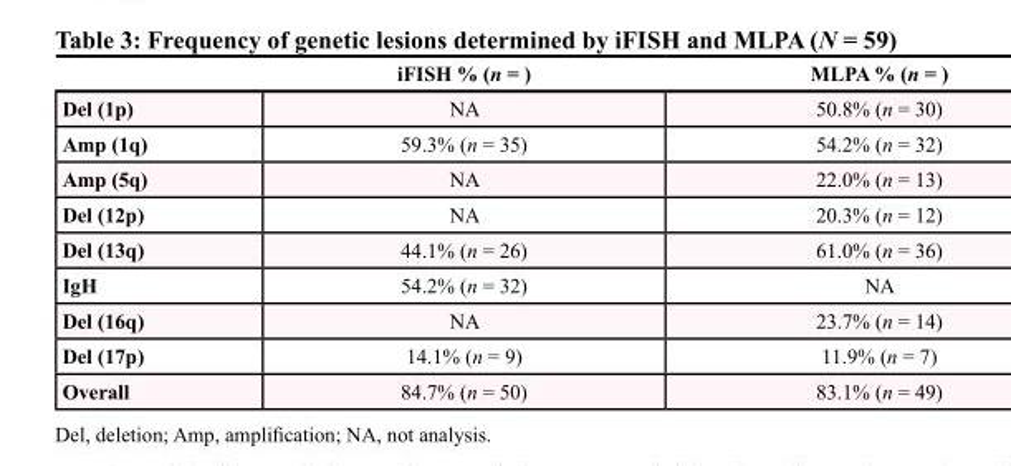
<table><thead><tr><td></td><td>iFISH % (n = )</td><td>MLPA % (n = )</td></tr></thead><tbody><tr><td>Del (1p)</td><td>NA</td><td>50.8% (n = 30)</td></tr><tr><td>Amp (1q)</td><td>59.3% (n = 35)</td><td>54.2% (n = 32)</td></tr><tr><td>Amp (5q)</td><td>NA</td><td>22.0% (n = 13)</td></tr><tr><td>Del (12p)</td><td>NA</td><td>20.3% (n = 12)</td></tr><tr><td>Del (13q)</td><td>44.1% (n = 26)</td><td>61.0% (n = 36)</td></tr><tr><td>IgH</td><td>54.2% (n = 32)</td><td>NA</td></tr><tr><td>Del (16q)</td><td>NA</td><td>23.7% (n = 14)</td></tr><tr><td>Del (17p)</td><td>14.1% (n = 9)</td><td>11.9% (n = 7)</td></tr><tr><td>Overall</td><td>84.7% (n = 50)</td><td>83.1% (n = 49)</td></tr></tbody></table>